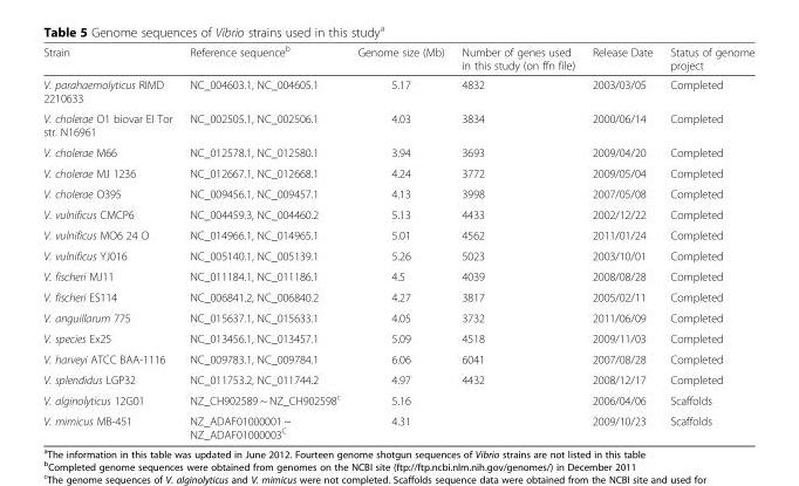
<table><thead><tr><td>Strain</td><td>Reference sequence<sup>b</sup></td><td>Genome size (Mb)</td><td>Number of genes used in this study (on ffn file)</td><td>Release Date</td><td>Status of genome project</td></tr></thead><tbody><tr><td>V. parahaemolyticus RIMD 2210633</td><td>NC_004603.1, NC_004605.1</td><td>5.17</td><td>4832</td><td>2003/03/05</td><td>Completed</td></tr><tr><td>V. cholerae O1 biovar EI Tor str. N16961</td><td>NC_002505.1, NC_002506.1</td><td>4.03</td><td>3834</td><td>2000/06/14</td><td>Completed</td></tr><tr><td>V. cholerae M66</td><td>NC_012578.1, NC_012580.1</td><td>3.94</td><td>3693</td><td>2009/04/20</td><td>Completed</td></tr><tr><td>V. cholerae MJ 1236</td><td>NC_012667.1, NC_012668.1</td><td>4.24</td><td>3772</td><td>2009/05/04</td><td>Completed</td></tr><tr><td>V. cholerae O395</td><td>NC_009456.1, NC_009457.1</td><td>4.13</td><td>3998</td><td>2007/05/08</td><td>Completed</td></tr><tr><td>V. vulnificus CMCP6</td><td>NC_004459.3, NC_004460.2</td><td>5.13</td><td>4433</td><td>2002/12/22</td><td>Completed</td></tr><tr><td>V. vulnificus MO6 24 O</td><td>NC_014966.1, NC_014965.1</td><td>5.01</td><td>4562</td><td>2011/01/24</td><td>Completed</td></tr><tr><td>V. vulnificus YJ016</td><td>NC_005140.1, NC_005139.1</td><td>5.26</td><td>5023</td><td>2003/10/01</td><td>Completed</td></tr><tr><td>V. fischeri MJ11</td><td>NC_011184.1, NC_011186.1</td><td>4.5</td><td>4039</td><td>2008/08/28</td><td>Completed</td></tr><tr><td>V. fischeri ES114</td><td>NC_006841.2, NC_006840.2</td><td>4.27</td><td>3817</td><td>2005/02/11</td><td>Completed</td></tr><tr><td>V. anguillarum 775</td><td>NC_015637.1, NC_015633.1</td><td>4.05</td><td>3732</td><td>2011/06/09</td><td>Completed</td></tr><tr><td>V. species Ex25</td><td>NC_013456.1, NC_013457.1</td><td>5.09</td><td>4518</td><td>2009/11/03</td><td>Completed</td></tr><tr><td>V. harveyi ATCC BAA-1116</td><td>NC_009783.1, NC_009784.1</td><td>6.06</td><td>6041</td><td>2007/08/28</td><td>Completed</td></tr><tr><td>V. splendidus LGP32</td><td>NC_011753.2, NC_011744.2</td><td>4.97</td><td>4432</td><td>2008/12/17</td><td>Completed</td></tr><tr><td>V. alginolyticus 12G01</td><td>NZ_CH902589 ~ NZ_CH902598<sup>c</sup></td><td>5.16</td><td></td><td>2006/04/06</td><td>Scaffolds</td></tr><tr><td>V. mimicus MB-451</td><td>NZ_ADAF01000001 ~ NZ_ADAF01000003<sup>C</sup></td><td>4.31</td><td></td><td>2009/10/23</td><td>Scaffolds</td></tr></tbody></table>